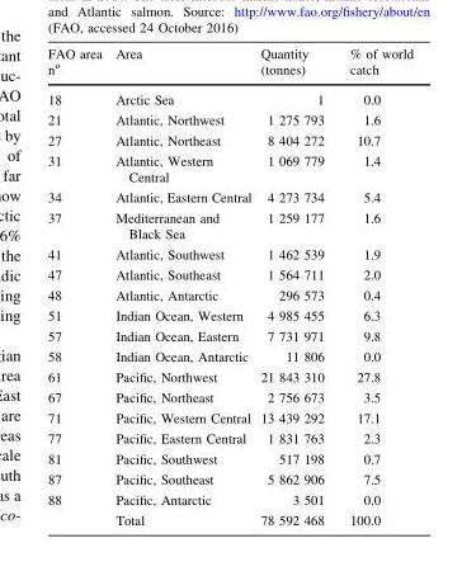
<table><thead><tr><td>FAO area n<sup>o</sup></td><td>Area</td><td>Quantity (tonnes)</td><td>% of world catch</td></tr></thead><tbody><tr><td>18</td><td>Arctic Sea</td><td>1</td><td>0.0</td></tr><tr><td>21</td><td>Atlantic, Northwest</td><td>1 275 793</td><td>1.6</td></tr><tr><td>27</td><td>Atlantic, Northeast</td><td>8 404 272</td><td>10.7</td></tr><tr><td>31</td><td>Atlantic, Western Central</td><td>1 069 779</td><td>1.4</td></tr><tr><td>34</td><td>Atlantic, Eastern Central</td><td>4 273 734</td><td>5.4</td></tr><tr><td>37</td><td>Mediterranean and Black Sea</td><td>1 259 177</td><td>1.6</td></tr><tr><td>41</td><td>Atlantic, Southwest</td><td>1 462 539</td><td>1.9</td></tr><tr><td>47</td><td>Atlantic, Southeast</td><td>1 564 711</td><td>2.0</td></tr><tr><td>48</td><td>Atlantic, Antarctic</td><td>296 573</td><td>0.4</td></tr><tr><td>51</td><td>Indian Ocean, Western</td><td>4 985 455</td><td>6.3</td></tr><tr><td>57</td><td>Indian Ocean, Eastern</td><td>7 731 971</td><td>9.8</td></tr><tr><td>58</td><td>Indian Ocean, Antarctic</td><td>11 806</td><td>0.0</td></tr><tr><td>61</td><td>Pacific, Northwest</td><td>21 843 310</td><td>27.8</td></tr><tr><td>67</td><td>Pacific, Northeast</td><td>2 756 673</td><td>3.5</td></tr><tr><td>71</td><td>Pacific, Western Central</td><td>13 439 292</td><td>17.1</td></tr><tr><td>77</td><td>Pacific, Eastern Central</td><td>1 831 763</td><td>2.3</td></tr><tr><td>81</td><td>Pacific, Southwest</td><td>517 198</td><td>0.7</td></tr><tr><td>87</td><td>Pacific, Southeast</td><td>5 862 906</td><td>7.5</td></tr><tr><td rowspan="2">88</td><td>Pacific, Antarctic</td><td>3 501</td><td>0.0</td></tr><tr><td>Total</td><td>78 592 468</td><td>100.0</td></tr></tbody></table>